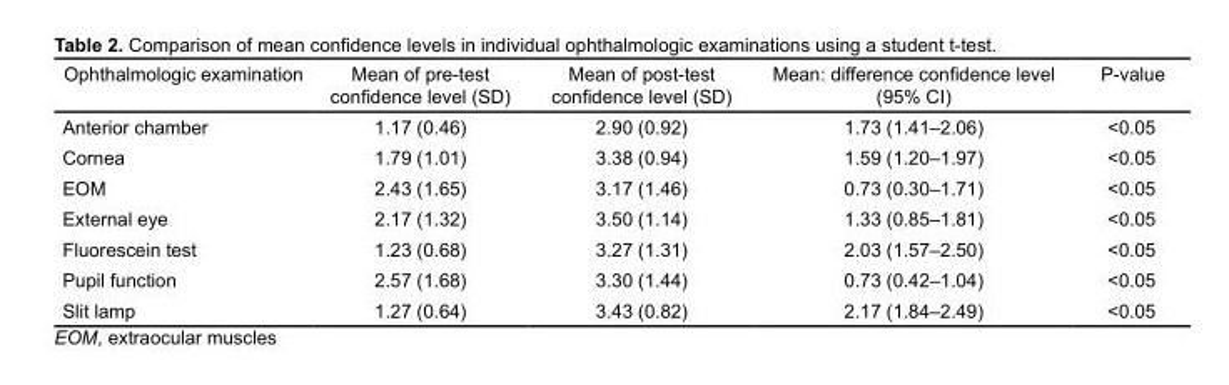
<table><thead><tr><td>Ophthalmologic examination</td><td>Mean of pre-test confidence level (SD)</td><td>Mean of post-test confidence level (SD)</td><td>Mean: difference confidence level (95% CI)</td><td>P-value</td></tr></thead><tbody><tr><td>Anterior chamber</td><td>1.17 (0.46)</td><td>2.90 (0.92)</td><td>1.73 (1.41–2.06)</td><td>&lt;0.05</td></tr><tr><td>Cornea</td><td>1.79 (1.01)</td><td>3.38 (0.94)</td><td>1.59 (1.20–1.97)</td><td>&lt;0.05</td></tr><tr><td>EOM</td><td>2.43 (1.65)</td><td>3.17 (1.46)</td><td>0.73 (0.30–1.71)</td><td>&lt;0.05</td></tr><tr><td>External eye</td><td>2.17 (1.32)</td><td>3.50 (1.14)</td><td>1.33 (0.85–1.81)</td><td>&lt;0.05</td></tr><tr><td>Fluorescein test</td><td>1.23 (0.68)</td><td>3.27 (1.31)</td><td>2.03 (1.57–2.50)</td><td>&lt;0.05</td></tr><tr><td>Pupil function</td><td>2.57 (1.68)</td><td>3.30 (1.44)</td><td>0.73 (0.42–1.04)</td><td>&lt;0.05</td></tr><tr><td>Slit lamp</td><td>1.27 (0.64)</td><td>3.43 (0.82)</td><td>2.17 (1.84–2.49)</td><td>&lt;0.05</td></tr></tbody></table>